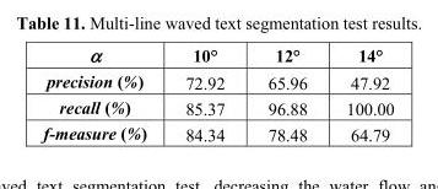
<table><thead><tr><td>α</td><td>10°</td><td>12°</td><td>14°</td></tr></thead><tbody><tr><td>precision (%)</td><td>72.92</td><td>65.96</td><td>47.92</td></tr><tr><td>recall (%)</td><td>85.37</td><td>96.88</td><td>100.00</td></tr><tr><td>f-measure (%)</td><td>84.34</td><td>78.48</td><td>64.79</td></tr></tbody></table>